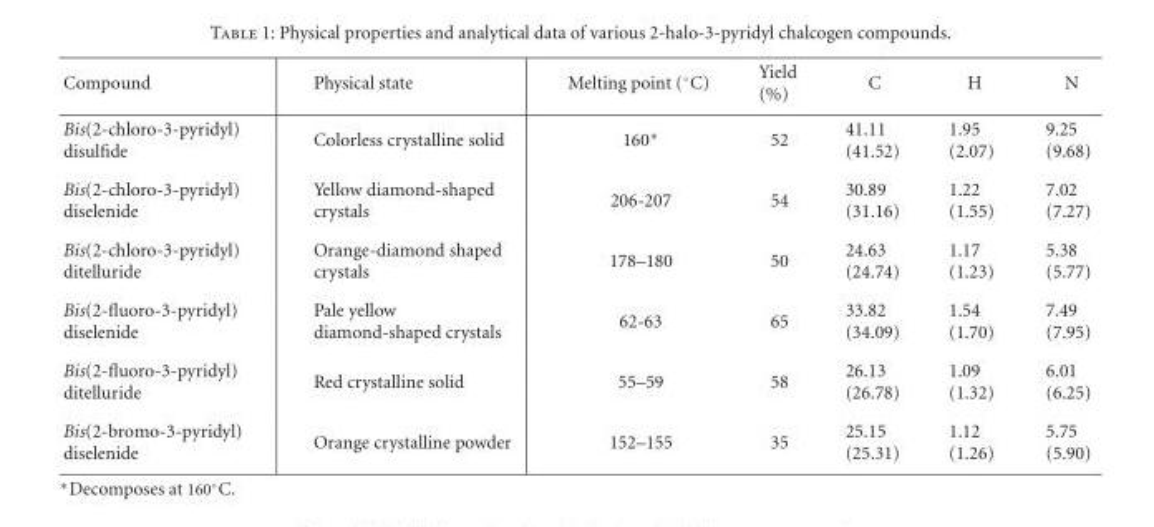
<table><tbody><tr><td>Compound</td><td>Physical state</td><td>Melting point (◦C)</td><td>Yield (%)</td><td>C</td><td>H</td><td>N</td></tr><tr><td>Bis(2-chloro-3-pyridyl) disulfide</td><td>Colorless crystalline solid</td><td>160∗</td><td>52</td><td>41.11 (41.52)</td><td>1.95 (2.07)</td><td>9.25 (9.68)</td></tr><tr><td>Bis(2-chloro-3-pyridyl) diselenide</td><td>Yellow diamond-shaped crystals</td><td>206-207</td><td>54</td><td>30.89 (31.16)</td><td>1.22 (1.55)</td><td>7.02 (7.27)</td></tr><tr><td>Bis(2-chloro-3-pyridyl) ditelluride</td><td>Orange-diamond shaped crystals</td><td>178–180</td><td>50</td><td>24.63 (24.74)</td><td>1.17 (1.23)</td><td>5.38 (5.77)</td></tr><tr><td>Bis(2-fluoro-3-pyridyl) diselenide</td><td>Pale yellow diamond-shaped crystals</td><td>62-63</td><td>65</td><td>33.82 (34.09)</td><td>1.54 (1.70)</td><td>7.49 (7.95)</td></tr><tr><td>Bis(2-fluoro-3-pyridyl) ditelluride</td><td>Red crystalline solid</td><td>55–59</td><td>58</td><td>26.13 (26.78)</td><td>1.09 (1.32)</td><td>6.01 (6.25)</td></tr><tr><td>Bis(2-bromo-3-pyridyl) diselenide</td><td>Orange crystalline powder</td><td>152–155</td><td>35</td><td>25.15 (25.31)</td><td>1.12 (1.26)</td><td>5.75 (5.90)</td></tr></tbody></table>